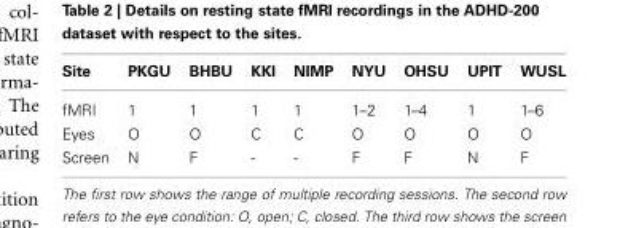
<table><thead><tr><td>Site</td><td>PKGU</td><td>BHBU</td><td>KKI</td><td>NIMP</td><td>NYU</td><td>OHSU</td><td>UPIT</td><td>WUSL</td></tr></thead><tbody><tr><td>fMRI</td><td>1</td><td>1</td><td>1</td><td>1</td><td>1–2</td><td>1–4</td><td>1</td><td>1–6</td></tr><tr><td>Eyes</td><td>O</td><td>O</td><td>C</td><td>C</td><td>O</td><td>O</td><td>O</td><td>O</td></tr><tr><td>Screen</td><td>N</td><td>F</td><td>-</td><td>-</td><td>F</td><td>F</td><td>N</td><td>F</td></tr></tbody></table>